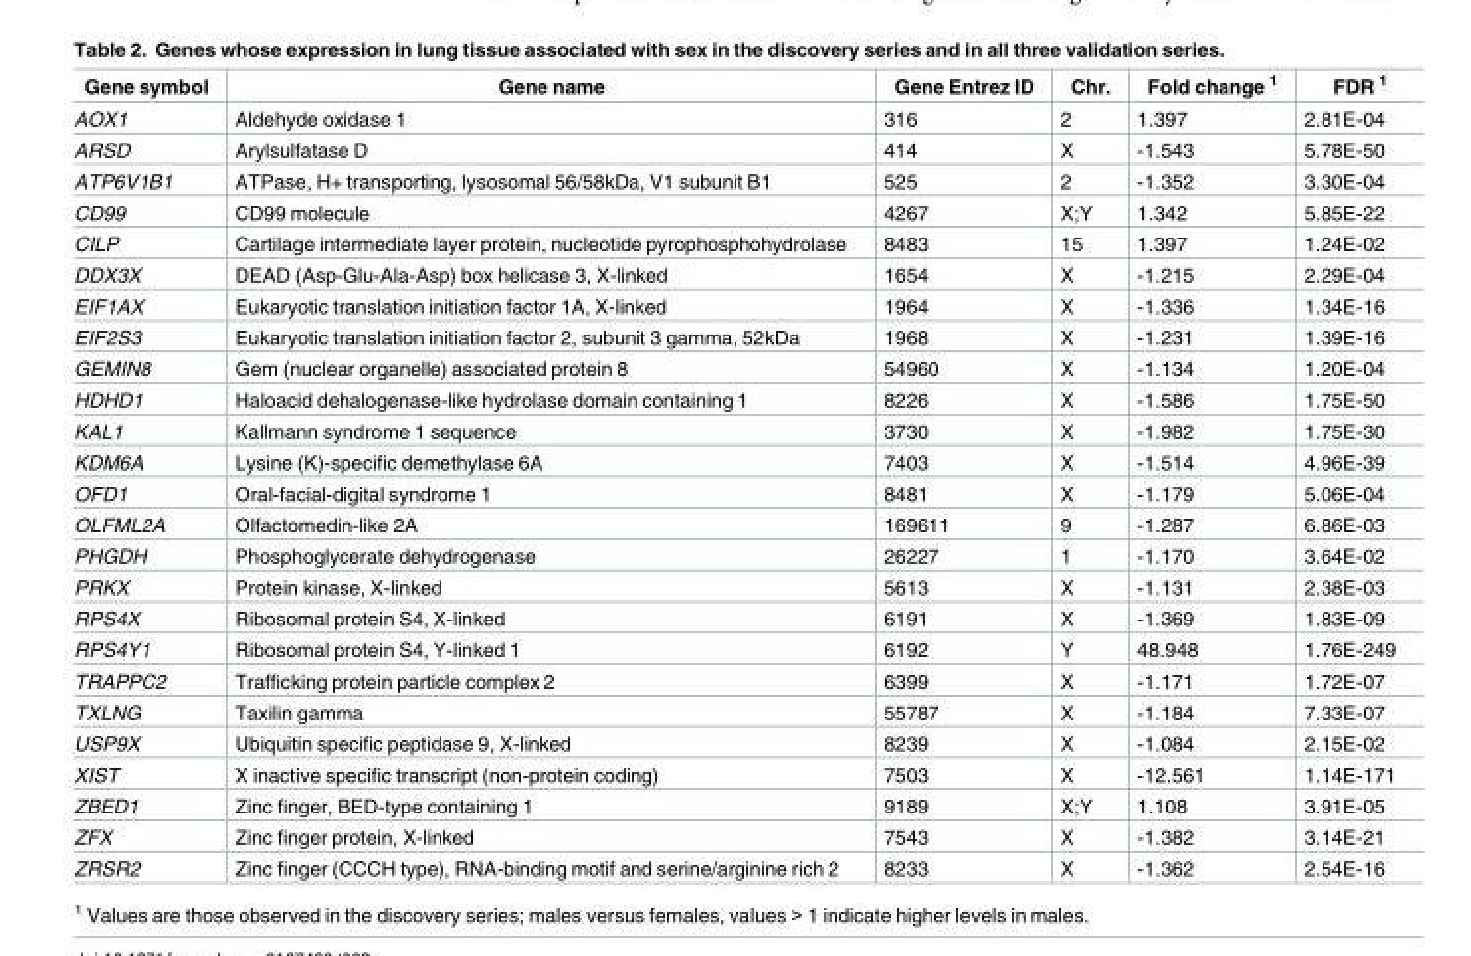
<table><thead><tr><td>Gene symbol</td><td>Gene name</td><td>Gene Entrez ID</td><td>Chr.</td><td>Fold change <sup>1</sup></td><td>FDR <sup>1</sup></td></tr></thead><tbody><tr><td>AOX1</td><td>Aldehyde oxidase 1</td><td>316</td><td>2</td><td>1.397</td><td>2.81E-04</td></tr><tr><td>ARSD</td><td>Arylsulfatase D</td><td>414</td><td>X</td><td>-1.543</td><td>5.78E-50</td></tr><tr><td>ATP6V1B1</td><td>ATPase, H+ transporting, lysosomal 56/58kDa, V1 subunit B1</td><td>525</td><td>2</td><td>-1.352</td><td>3.30E-04</td></tr><tr><td>CD99</td><td>CD99 molecule</td><td>4267</td><td>X;Y</td><td>1.342</td><td>5.85E-22</td></tr><tr><td>CILP</td><td>Cartilage intermediate layer protein, nucleotide pyrophosphohydrolase</td><td>8483</td><td>15</td><td>1.397</td><td>1.24E-02</td></tr><tr><td>DDX3X</td><td>DEAD (Asp-Glu-Ala-Asp) box helicase 3, X-linked</td><td>1654</td><td>X</td><td>-1.215</td><td>2.29E-04</td></tr><tr><td>EIF1AX</td><td>Eukaryotic translation initiation factor 1A, X-linked</td><td>1964</td><td>X</td><td>-1.336</td><td>1.34E-16</td></tr><tr><td>EIF2S3</td><td>Eukaryotic translation initiation factor 2, subunit 3 gamma, 52kDa</td><td>1968</td><td>X</td><td>-1.231</td><td>1.39E-16</td></tr><tr><td>GEMIN8</td><td>Gem (nuclear organelle) associated protein 8</td><td>54960</td><td>X</td><td>-1.134</td><td>1.20E-04</td></tr><tr><td>HDHD1</td><td>Haloacid dehalogenase-like hydrolase domain containing 1</td><td>8226</td><td>X</td><td>-1.586</td><td>1.75E-50</td></tr><tr><td>KAL1</td><td>Kallmann syndrome 1 sequence</td><td>3730</td><td>X</td><td>-1.982</td><td>1.75E-30</td></tr><tr><td>KDM6A</td><td>Lysine (K)-specific demethylase 6A</td><td>7403</td><td>X</td><td>-1.514</td><td>4.96E-39</td></tr><tr><td>OFD1</td><td>Oral-facial-digital syndrome 1</td><td>8481</td><td>X</td><td>-1.179</td><td>5.06E-04</td></tr><tr><td>OLFML2A</td><td>Olfactomedin-like 2A</td><td>169611</td><td>9</td><td>-1.287</td><td>6.86E-03</td></tr><tr><td>PHGDH</td><td>Phosphoglycerate dehydrogenase</td><td>26227</td><td>1</td><td>-1.170</td><td>3.64E-02</td></tr><tr><td>PRKX</td><td>Protein kinase, X-linked</td><td>5613</td><td>X</td><td>-1.131</td><td>2.38E-03</td></tr><tr><td>RPS4X</td><td>Ribosomal protein S4, X-linked</td><td>6191</td><td>X</td><td>-1.369</td><td>1.83E-09</td></tr><tr><td>RPS4Y1</td><td>Ribosomal protein S4, Y-linked 1</td><td>6192</td><td>Y</td><td>48.948</td><td>1.76E-249</td></tr><tr><td>TRAPPC2</td><td>Trafficking protein particle complex 2</td><td>6399</td><td>X</td><td>-1.171</td><td>1.72E-07</td></tr><tr><td>TXLNG</td><td>Taxilin gamma</td><td>55787</td><td>X</td><td>-1.184</td><td>7.33E-07</td></tr><tr><td>USP9X</td><td>Ubiquitin specific peptidase 9, X-linked</td><td>8239</td><td>X</td><td>-1.084</td><td>2.15E-02</td></tr><tr><td>XIST</td><td>X inactive specific transcript (non-protein coding)</td><td>7503</td><td>X</td><td>-12.561</td><td>1.14E-171</td></tr><tr><td>ZBED1</td><td>Zinc finger, BED-type containing 1</td><td>9189</td><td>X;Y</td><td>1.108</td><td>3.91E-05</td></tr><tr><td>ZFX</td><td>Zinc finger protein, X-linked</td><td>7543</td><td>X</td><td>-1.382</td><td>3.14E-21</td></tr><tr><td>ZRSR2</td><td>Zinc finger (CCCH type), RNA-binding motif and serine/arginine rich 2</td><td>8233</td><td>X</td><td>-1.362</td><td>2.54E-16</td></tr></tbody></table>